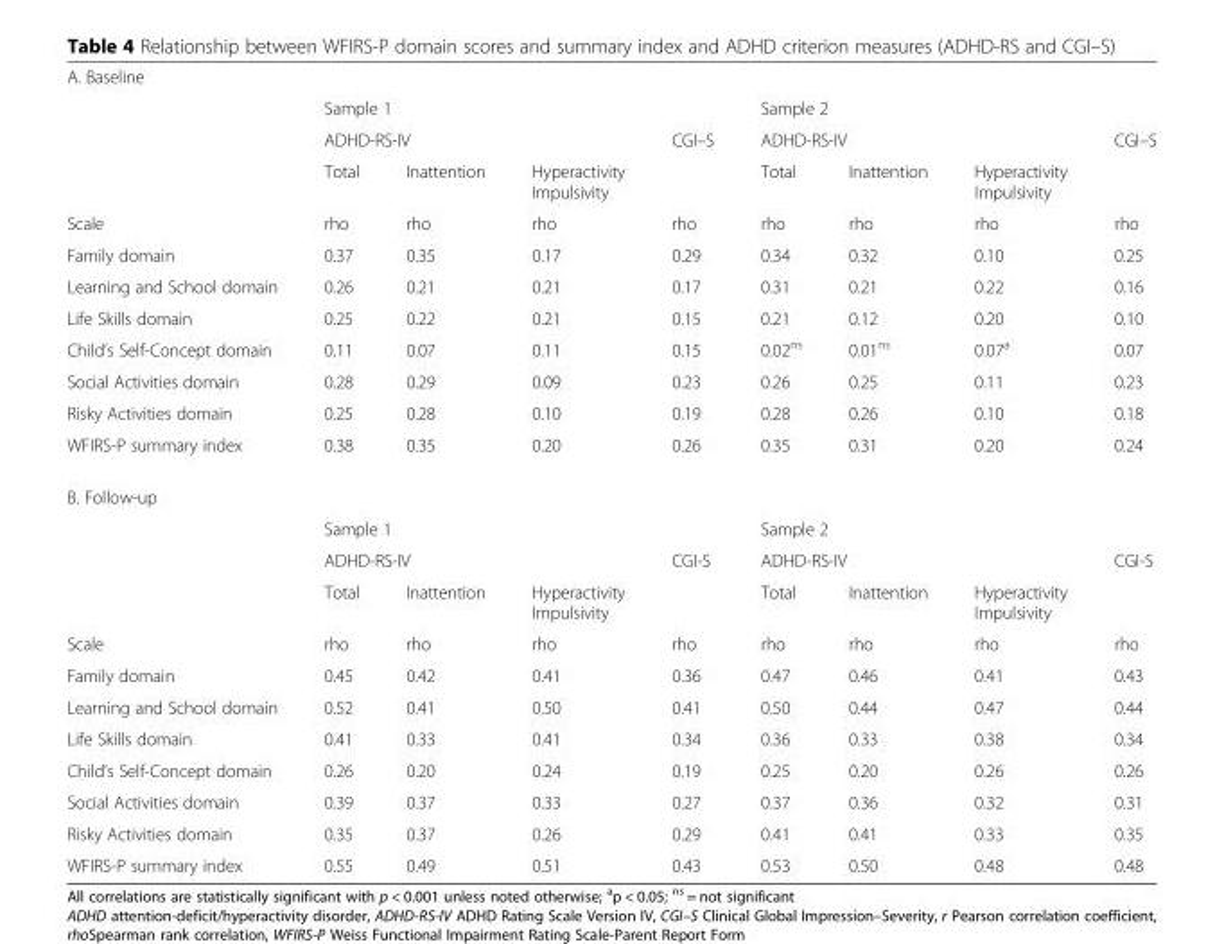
<table><tbody><tr><td colspan="9">A. Baseline</td></tr><tr><td></td><td colspan="4">Sample 1</td><td colspan="4">Sample 2</td></tr><tr><td></td><td colspan="3">ADHD-RS-IV</td><td rowspan="2">CGI–S</td><td colspan="3">ADHD-RS-IV</td><td rowspan="2">CGI–S</td></tr><tr><td></td><td>Total</td><td>Inattention</td><td>Hyperactivity Impulsivity</td><td>Total</td><td>Inattention</td><td>Hyperactivity Impulsivity</td></tr><tr><td>Scale</td><td>rho</td><td>rho</td><td>rho</td><td>rho</td><td>rho</td><td>rho</td><td>rho</td><td>rho</td></tr><tr><td>Family domain</td><td>0.37</td><td>0.35</td><td>0.17</td><td>0.29</td><td>0.34</td><td>0.32</td><td>0.10</td><td>0.25</td></tr><tr><td>Learning and School domain</td><td>0.26</td><td>0.21</td><td>0.21</td><td>0.17</td><td>0.31</td><td>0.21</td><td>0.22</td><td>0.16</td></tr><tr><td>Life Skills domain</td><td>0.25</td><td>0.22</td><td>0.21</td><td>0.15</td><td>0.21</td><td>0.12</td><td>0.20</td><td>0.10</td></tr><tr><td>Child’s Self-Concept domain</td><td>0.11</td><td>0.07</td><td>0.11</td><td>0.15</td><td>0.02<sup>ns</sup></td><td>0.01<sup>ns</sup></td><td>0.07<sup>a</sup></td><td>0.07</td></tr><tr><td>Social Activities domain</td><td>0.28</td><td>0.29</td><td>0.09</td><td>0.23</td><td>0.26</td><td>0.25</td><td>0.11</td><td>0.23</td></tr><tr><td>Risky Activities domain</td><td>0.25</td><td>0.28</td><td>0.10</td><td>0.19</td><td>0.28</td><td>0.26</td><td>0.10</td><td>0.18</td></tr><tr><td>WFIRS-P summary index</td><td>0.38</td><td>0.35</td><td>0.20</td><td>0.26</td><td>0.35</td><td>0.31</td><td>0.20</td><td>0.24</td></tr><tr><td colspan="9">B. Follow-up</td></tr><tr><td></td><td colspan="4">Sample 1</td><td colspan="4">Sample 2</td></tr><tr><td></td><td colspan="3">ADHD-RS-IV</td><td rowspan="2">CGI-S</td><td colspan="3">ADHD-RS-IV</td><td rowspan="2">CGI-S</td></tr><tr><td></td><td>Total</td><td>Inattention</td><td>Hyperactivity Impulsivity</td><td>Total</td><td>Inattention</td><td>Hyperactivity Impulsivity</td></tr><tr><td>Scale</td><td>rho</td><td>rho</td><td>rho</td><td>rho</td><td>rho</td><td>rho</td><td>rho</td><td>rho</td></tr><tr><td>Family domain</td><td>0.45</td><td>0.42</td><td>0.41</td><td>0.36</td><td>0.47</td><td>0.46</td><td>0.41</td><td>0.43</td></tr><tr><td>Learning and School domain</td><td>0.52</td><td>0.41</td><td>0.50</td><td>0.41</td><td>0.50</td><td>0.44</td><td>0.47</td><td>0.44</td></tr><tr><td>Life Skills domain</td><td>0.41</td><td>0.33</td><td>0.41</td><td>0.34</td><td>0.36</td><td>0.33</td><td>0.38</td><td>0.34</td></tr><tr><td>Child’s Self-Concept domain</td><td>0.26</td><td>0.20</td><td>0.24</td><td>0.19</td><td>0.25</td><td>0.20</td><td>0.26</td><td>0.26</td></tr><tr><td>Social Activities domain</td><td>0.39</td><td>0.37</td><td>0.33</td><td>0.27</td><td>0.37</td><td>0.36</td><td>0.32</td><td>0.31</td></tr><tr><td>Risky Activities domain</td><td>0.35</td><td>0.37</td><td>0.26</td><td>0.29</td><td>0.41</td><td>0.41</td><td>0.33</td><td>0.35</td></tr><tr><td>WFIRS-P summary index</td><td>0.55</td><td>0.49</td><td>0.51</td><td>0.43</td><td>0.53</td><td>0.50</td><td>0.48</td><td>0.48</td></tr></tbody></table>